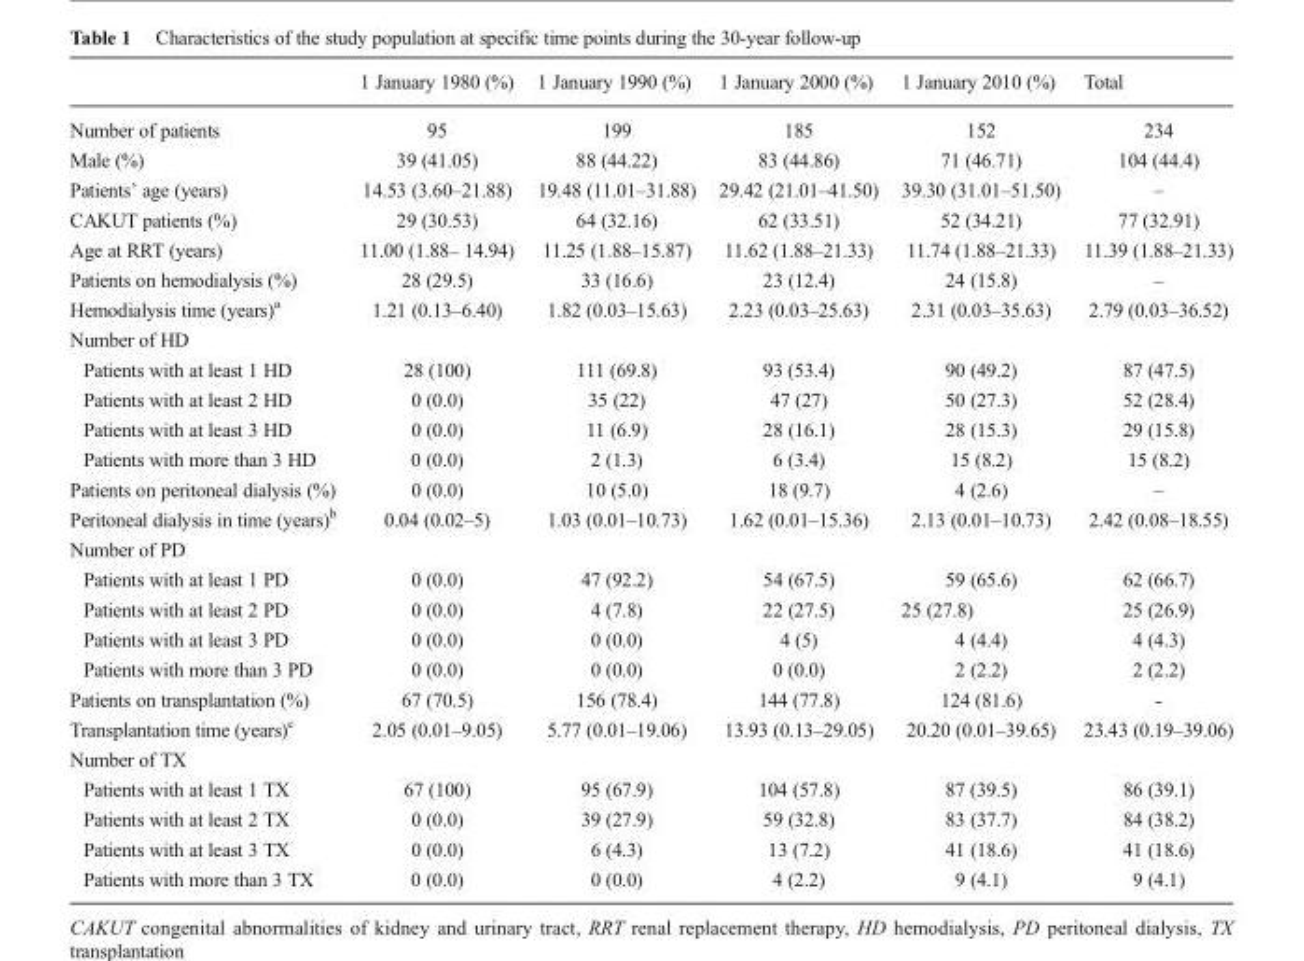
<table><thead><tr><td></td><td>1 January 1980 (%)</td><td>1 January 1990 (%)</td><td>1 January 2000 (%)</td><td>1 January 2010 (%)</td><td>Total</td></tr></thead><tbody><tr><td>Number of patients</td><td>95</td><td>199</td><td>185</td><td>152</td><td>234</td></tr><tr><td>Male (%)</td><td>39 (41.05)</td><td>88 (44.22)</td><td>83 (44.86)</td><td>71 (46.71)</td><td>104 (44.4)</td></tr><tr><td>Patients’ age (years)</td><td>14.53 (3.60–21.88)</td><td>19.48 (11.01–31.88)</td><td>29.42 (21.01–41.50)</td><td>39.30 (31.01–51.50)</td><td>–</td></tr><tr><td>CAKUT patients (%)</td><td>29 (30.53)</td><td>64 (32.16)</td><td>62 (33.51)</td><td>52 (34.21)</td><td>77 (32.91)</td></tr><tr><td>Age at RRT (years)</td><td>11.00 (1.88– 14.94)</td><td>11.25 (1.88–15.87)</td><td>11.62 (1.88–21.33)</td><td>11.74 (1.88–21.33)</td><td>11.39 (1.88–21.33)</td></tr><tr><td>Patients on hemodialysis (%)</td><td>28 (29.5)</td><td>33 (16.6)</td><td>23 (12.4)</td><td>24 (15.8)</td><td>–</td></tr><tr><td>Hemodialysis time (years)<sup>a</sup></td><td>1.21 (0.13–6.40)</td><td>1.82 (0.03–15.63)</td><td>2.23 (0.03–25.63)</td><td>2.31 (0.03–35.63)</td><td>2.79 (0.03–36.52)</td></tr><tr><td colspan="6">Number of HD</td></tr><tr><td>Patients with at least 1 HD</td><td>28 (100)</td><td>111 (69.8)</td><td>93 (53.4)</td><td>90 (49.2)</td><td>87 (47.5)</td></tr><tr><td>Patients with at least 2 HD</td><td>0 (0.0)</td><td>35 (22)</td><td>47 (27)</td><td>50 (27.3)</td><td>52 (28.4)</td></tr><tr><td>Patients with at least 3 HD</td><td>0 (0.0)</td><td>11 (6.9)</td><td>28 (16.1)</td><td>28 (15.3)</td><td>29 (15.8)</td></tr><tr><td>Patients with more than 3 HD</td><td>0 (0.0)</td><td>2 (1.3)</td><td>6 (3.4)</td><td>15 (8.2)</td><td>15 (8.2)</td></tr><tr><td>Patients on peritoneal dialysis (%)</td><td>0 (0.0)</td><td>10 (5.0)</td><td>18 (9.7)</td><td>4 (2.6)</td><td>–</td></tr><tr><td>Peritoneal dialysis in time (years)<sup>b</sup></td><td>0.04 (0.02–5)</td><td>1.03 (0.01–10.73)</td><td>1.62 (0.01–15.36)</td><td>2.13 (0.01–10.73)</td><td>2.42 (0.08–18.55)</td></tr><tr><td colspan="6">Number of PD</td></tr><tr><td>Patients with at least 1 PD</td><td>0 (0.0)</td><td>47 (92.2)</td><td>54 (67.5)</td><td>59 (65.6)</td><td>62 (66.7)</td></tr><tr><td>Patients with at least 2 PD</td><td>0 (0.0)</td><td>4 (7.8)</td><td>22 (27.5)</td><td>25 (27.8)</td><td>25 (26.9)</td></tr><tr><td>Patients with at least 3 PD</td><td>0 (0.0)</td><td>0 (0.0)</td><td>4 (5)</td><td>4 (4.4)</td><td>4 (4.3)</td></tr><tr><td>Patients with more than 3 PD</td><td>0 (0.0)</td><td>0 (0.0)</td><td>0 (0.0)</td><td>2 (2.2)</td><td>2 (2.2)</td></tr><tr><td>Patients on transplantation (%)</td><td>67 (70.5)</td><td>156 (78.4)</td><td>144 (77.8)</td><td>124 (81.6)</td><td>-</td></tr><tr><td>Transplantation time (years)<sup>c</sup></td><td>2.05 (0.01–9.05)</td><td>5.77 (0.01–19.06)</td><td>13.93 (0.13–29.05)</td><td>20.20 (0.01–39.65)</td><td>23.43 (0.19–39.06)</td></tr><tr><td colspan="6">Number of TX</td></tr><tr><td>Patients with at least 1 TX</td><td>67 (100)</td><td>95 (67.9)</td><td>104 (57.8)</td><td>87 (39.5)</td><td>86 (39.1)</td></tr><tr><td>Patients with at least 2 TX</td><td>0 (0.0)</td><td>39 (27.9)</td><td>59 (32.8)</td><td>83 (37.7)</td><td>84 (38.2)</td></tr><tr><td>Patients with at least 3 TX</td><td>0 (0.0)</td><td>6 (4.3)</td><td>13 (7.2)</td><td>41 (18.6)</td><td>41 (18.6)</td></tr><tr><td>Patients with more than 3 TX</td><td>0 (0.0)</td><td>0 (0.0)</td><td>4 (2.2)</td><td>9 (4.1)</td><td>9 (4.1)</td></tr></tbody></table>